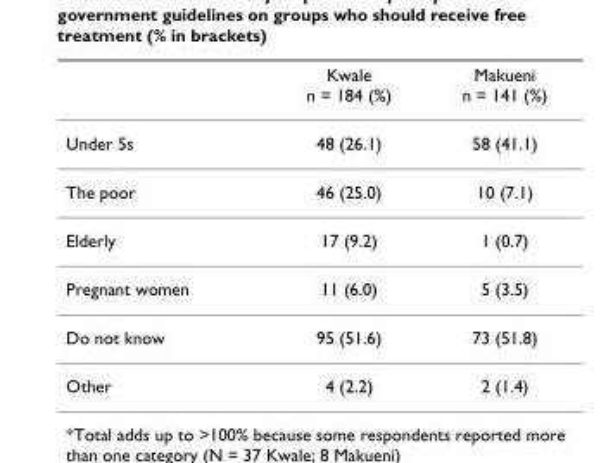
<table><thead><tr><td></td><td>Kwale n = 184 (%)</td><td>Makueni n = 141 (%)</td></tr></thead><tbody><tr><td>Under 5s</td><td>48 (26.1)</td><td>58 (41.1)</td></tr><tr><td>The poor</td><td>46 (25.0)</td><td>10 (7.1)</td></tr><tr><td>Elderly</td><td>17 (9.2)</td><td>1 (0.7)</td></tr><tr><td>Pregnant women</td><td>11 (6.0)</td><td>5 (3.5)</td></tr><tr><td>Do not know</td><td>95 (51.6)</td><td>73 (51.8)</td></tr><tr><td>Other</td><td>4 (2.2)</td><td>2 (1.4)</td></tr></tbody></table>